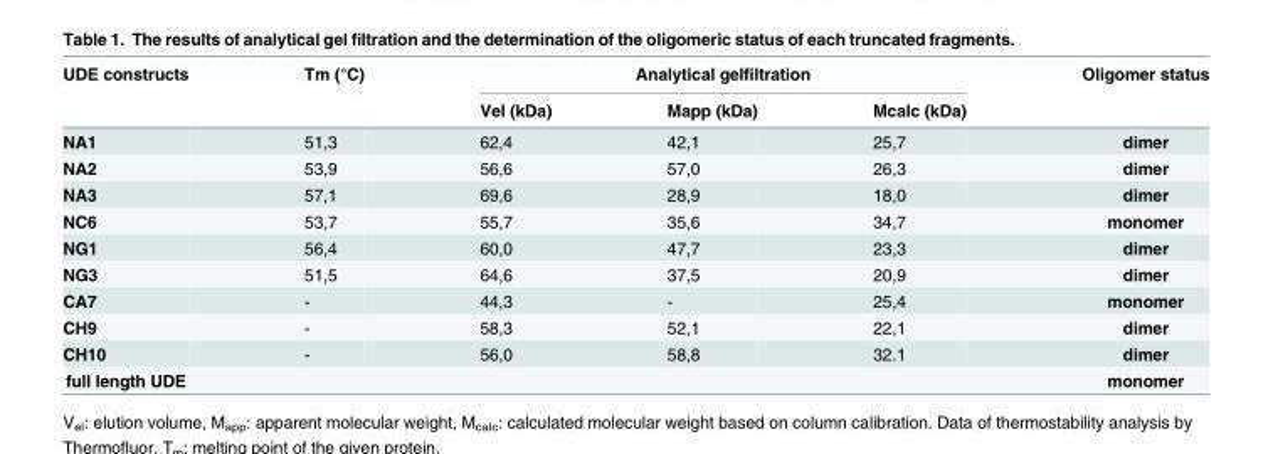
<table><thead><tr><td rowspan="2">UDE constructs</td><td rowspan="2">Tm (°C)</td><td colspan="3">Analytical gelfiltration</td><td rowspan="2">Oligomer status</td></tr><tr><td>Vel (kDa)</td><td>Mapp (kDa)</td><td>Mcalc (kDa)</td></tr></thead><tbody><tr><td>NA1</td><td>51,3</td><td>62,4</td><td>42,1</td><td>25,7</td><td>dimer</td></tr><tr><td>NA2</td><td>53,9</td><td>56,6</td><td>57,0</td><td>26,3</td><td>dimer</td></tr><tr><td>NA3</td><td>57,1</td><td>69,6</td><td>28,9</td><td>18,0</td><td>dimer</td></tr><tr><td>NC6</td><td>53,7</td><td>55,7</td><td>35,6</td><td>34,7</td><td>monomer</td></tr><tr><td>NG1</td><td>56,4</td><td>60,0</td><td>47,7</td><td>23,3</td><td>dimer</td></tr><tr><td>NG3</td><td>51,5</td><td>64,6</td><td>37,5</td><td>20,9</td><td>dimer</td></tr><tr><td>CA7</td><td>-</td><td>44,3</td><td>-</td><td>25,4</td><td>monomer</td></tr><tr><td>CH9</td><td>-</td><td>58,3</td><td>52,1</td><td>22,1</td><td>dimer</td></tr><tr><td>CH10</td><td>-</td><td>56,0</td><td>58,8</td><td>32.1</td><td>dimer</td></tr><tr><td>full length UDE</td><td></td><td></td><td></td><td></td><td>monomer</td></tr></tbody></table>